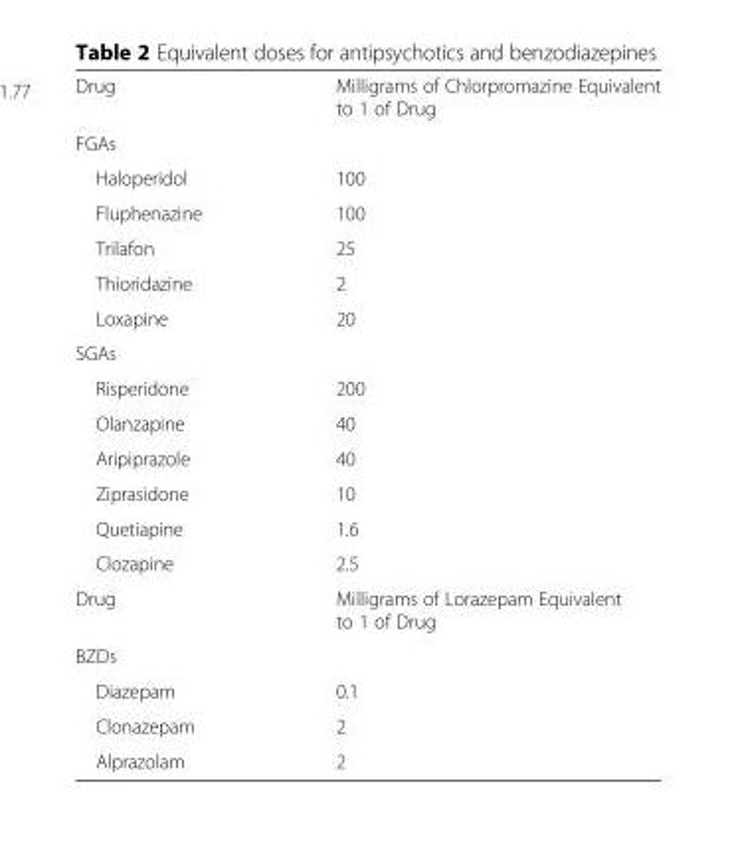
<table><tbody><tr><td>Drug</td><td>Milligrams of Chlorpromazine Equivalent to 1 of Drug</td></tr><tr><td colspan="2">FGAs</td></tr><tr><td>Haloperidol</td><td>100</td></tr><tr><td>Fluphenazine</td><td>100</td></tr><tr><td>Trilafon</td><td>25</td></tr><tr><td>Thioridazine</td><td>2</td></tr><tr><td>Loxapine</td><td>20</td></tr><tr><td colspan="2">SGAs</td></tr><tr><td>Risperidone</td><td>200</td></tr><tr><td>Olanzapine</td><td>40</td></tr><tr><td>Aripiprazole</td><td>40</td></tr><tr><td>Ziprasidone</td><td>10</td></tr><tr><td>Quetiapine</td><td>1.6</td></tr><tr><td>Clozapine</td><td>2.5</td></tr><tr><td>Drug</td><td>Milligrams of Lorazepam Equivalent to 1 of Drug</td></tr><tr><td colspan="2">BZDs</td></tr><tr><td>Diazepam</td><td>0.1</td></tr><tr><td>Clonazepam</td><td>2</td></tr><tr><td>Alprazolam</td><td>2</td></tr></tbody></table>